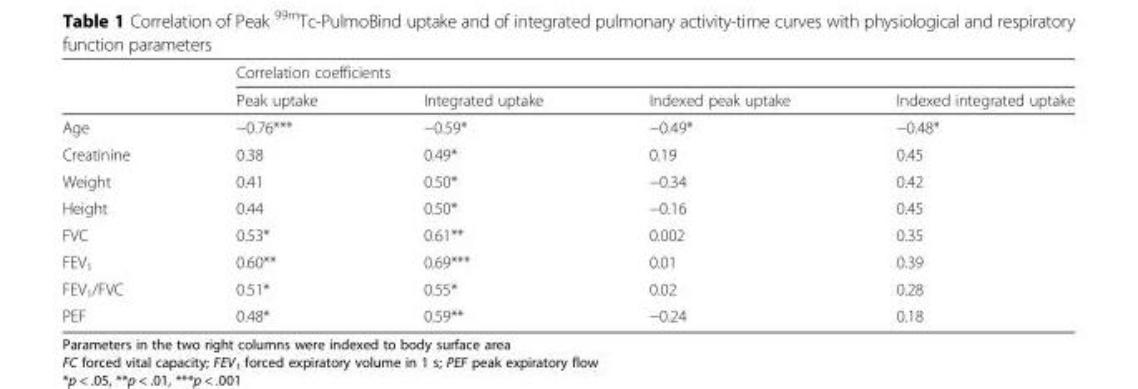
<table><thead><tr><td rowspan="2"></td><td colspan="4">Correlation coefficients</td></tr><tr><td>Peak uptake</td><td>Integrated uptake</td><td>Indexed peak uptake</td><td>Indexed integrated uptake</td></tr></thead><tbody><tr><td>Age</td><td>−0.76***</td><td>−0.59*</td><td>−0.49*</td><td>−0.48*</td></tr><tr><td>Creatinine</td><td>0.38</td><td>0.49*</td><td>0.19</td><td>0.45</td></tr><tr><td>Weight</td><td>0.41</td><td>0.50*</td><td>−0.34</td><td>0.42</td></tr><tr><td>Height</td><td>0.44</td><td>0.50*</td><td>−0.16</td><td>0.45</td></tr><tr><td>FVC</td><td>0.53*</td><td>0.61**</td><td>0.002</td><td>0.35</td></tr><tr><td>FEV<sub>1</sub></td><td>0.60**</td><td>0.69***</td><td>0.01</td><td>0.39</td></tr><tr><td>FEV<sub>1</sub>/FVC</td><td>0.51*</td><td>0.55*</td><td>0.02</td><td>0.28</td></tr><tr><td>PEF</td><td>0.48*</td><td>0.59**</td><td>−0.24</td><td>0.18</td></tr></tbody></table>